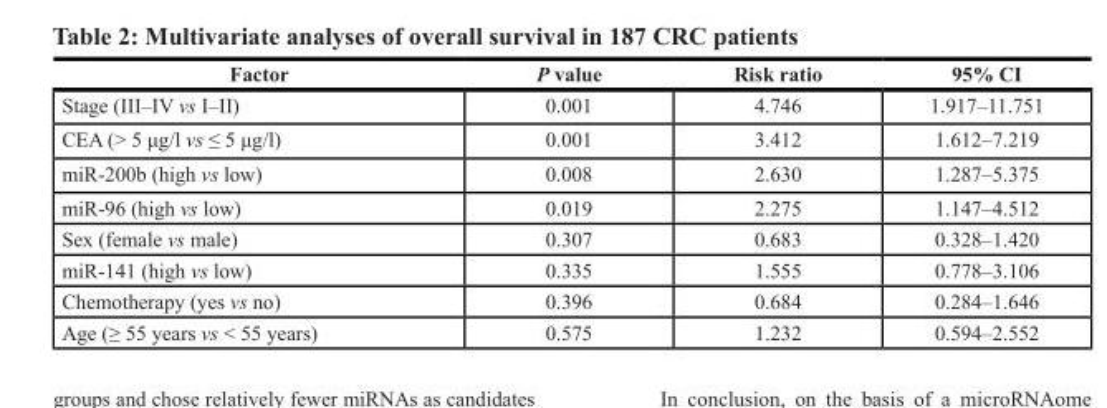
<table><thead><tr><td>Factor</td><td>P value</td><td>Risk ratio</td><td>95% CI</td></tr></thead><tbody><tr><td>Stage (III–IV vs I–II)</td><td>0.001</td><td>4.746</td><td>1.917–11.751</td></tr><tr><td>CEA (&gt; 5 μg/l vs ≤ 5 μg/l)</td><td>0.001</td><td>3.412</td><td>1.612–7.219</td></tr><tr><td>miR-200b (high vs low)</td><td>0.008</td><td>2.630</td><td>1.287–5.375</td></tr><tr><td>miR-96 (high vs low)</td><td>0.019</td><td>2.275</td><td>1.147–4.512</td></tr><tr><td>Sex (female vs male)</td><td>0.307</td><td>0.683</td><td>0.328–1.420</td></tr><tr><td>miR-141 (high vs low)</td><td>0.335</td><td>1.555</td><td>0.778–3.106</td></tr><tr><td>Chemotherapy (yes vs no)</td><td>0.396</td><td>0.684</td><td>0.284–1.646</td></tr><tr><td>Age (≥ 55 years vs &lt; 55 years)</td><td>0.575</td><td>1.232</td><td>0.594–2.552</td></tr></tbody></table>